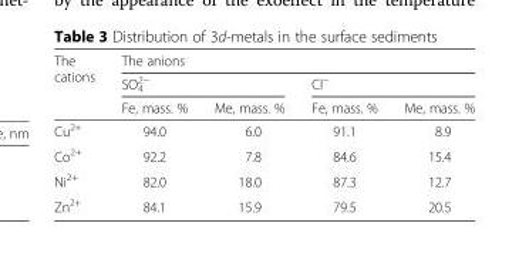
<table><thead><tr><td rowspan="3">The cations</td><td colspan="4">The anions</td></tr><tr><td colspan="2">SO<sub>4</sub> <sup>2−</sup></td><td colspan="2">Cl<sup>−</sup></td></tr><tr><td>Fe, mass. %</td><td>Me, mass. %</td><td>Fe, mass. %</td><td>Me, mass. %</td></tr></thead><tbody><tr><td>Cu<sup>2+</sup></td><td>94.0</td><td>6.0</td><td>91.1</td><td>8.9</td></tr><tr><td>Co<sup>2+</sup></td><td>92.2</td><td>7.8</td><td>84.6</td><td>15.4</td></tr><tr><td>Ni<sup>2+</sup></td><td>82.0</td><td>18.0</td><td>87.3</td><td>12.7</td></tr><tr><td>Zn<sup>2+</sup></td><td>84.1</td><td>15.9</td><td>79.5</td><td>20.5</td></tr></tbody></table>